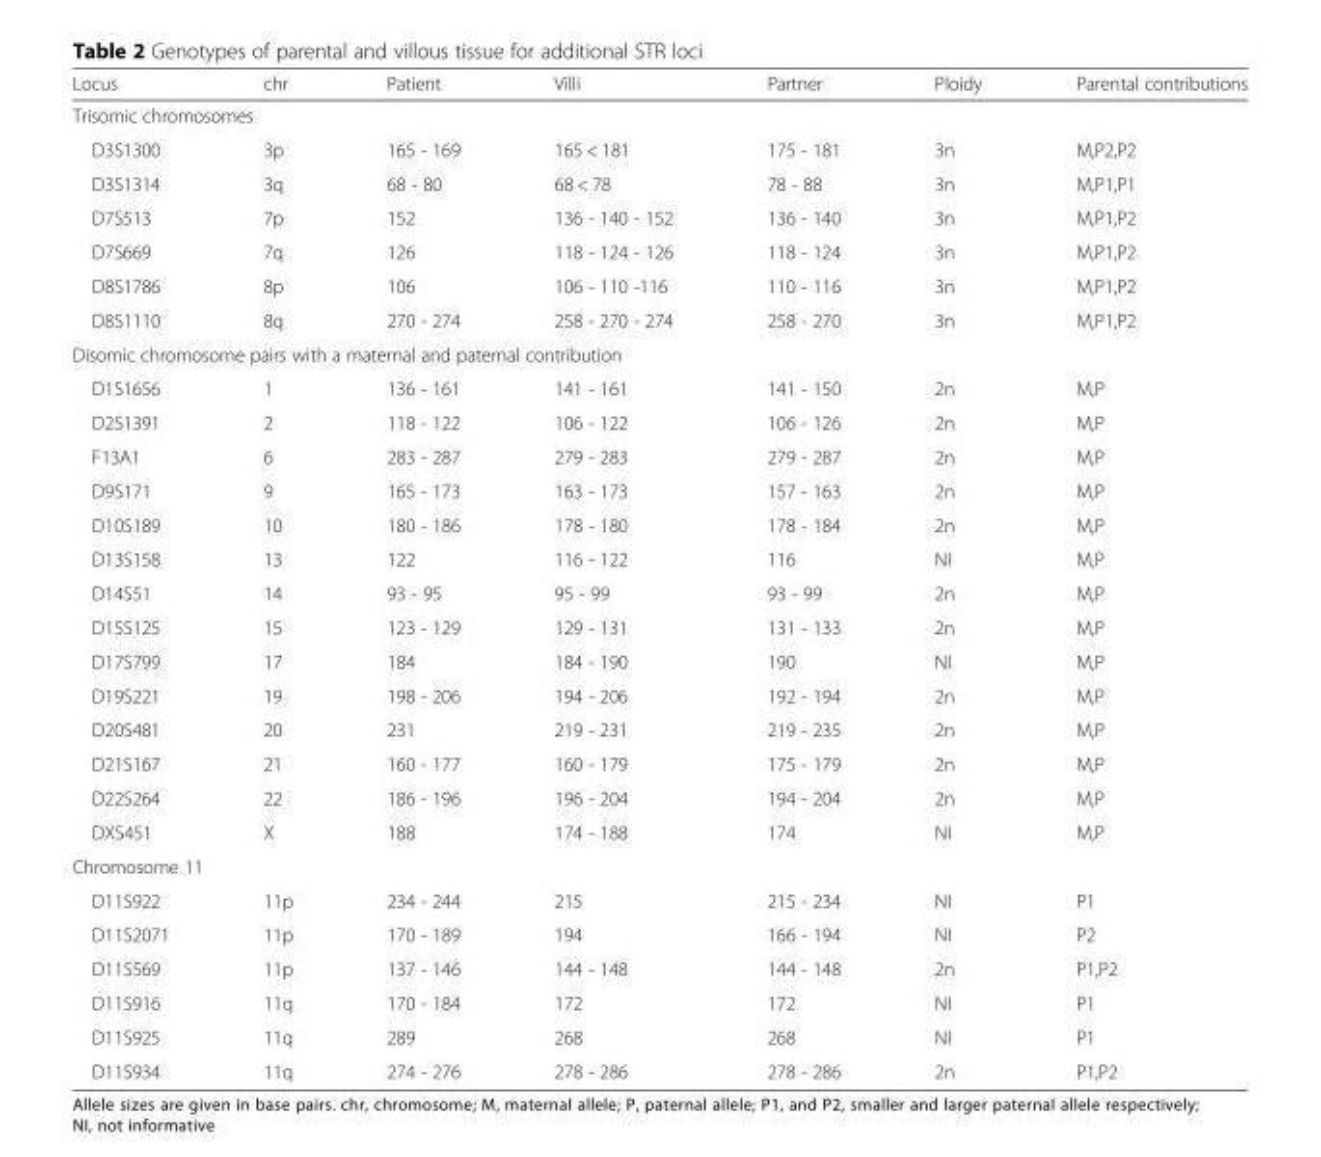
<table><thead><tr><td>Locus</td><td>chr</td><td>Patient</td><td>Villi</td><td>Partner</td><td>Ploidy</td><td>Parental contributions</td></tr></thead><tbody><tr><td colspan="7">Trisomic chromosomes</td></tr><tr><td>D3S1300</td><td>3p</td><td>165 - 169</td><td>165 &lt; 181</td><td>175 - 181</td><td>3n</td><td>M,P2,P2</td></tr><tr><td>D3S1314</td><td>3q</td><td>68 - 80</td><td>68 &lt; 78</td><td>78 - 88</td><td>3n</td><td>M,P1,P1</td></tr><tr><td>D7S513</td><td>7p</td><td>152</td><td>136 - 140 - 152</td><td>136 - 140</td><td>3n</td><td>M,P1,P2</td></tr><tr><td>D7S669</td><td>7q</td><td>126</td><td>118 - 124 - 126</td><td>118 - 124</td><td>3n</td><td>M,P1,P2</td></tr><tr><td>D8S1786</td><td>8p</td><td>106</td><td>106 - 110 -116</td><td>110 - 116</td><td>3n</td><td>M,P1,P2</td></tr><tr><td>D8S1110</td><td>8q</td><td>270 - 274</td><td>258 - 270 - 274</td><td>258 - 270</td><td>3n</td><td>M,P1,P2</td></tr><tr><td colspan="7">Disomic chromosome pairs with a maternal and paternal contribution</td></tr><tr><td>D1S1656</td><td>1</td><td>136 - 161</td><td>141 - 161</td><td>141 - 150</td><td>2n</td><td>M,P</td></tr><tr><td>D2S1391</td><td>2</td><td>118 - 122</td><td>106 - 122</td><td>106 - 126</td><td>2n</td><td>M,P</td></tr><tr><td>F13A1</td><td>6</td><td>283 - 287</td><td>279 - 283</td><td>279 - 287</td><td>2n</td><td>M,P</td></tr><tr><td>D9S171</td><td>9</td><td>165 - 173</td><td>163 - 173</td><td>157 - 163</td><td>2n</td><td>M,P</td></tr><tr><td>D10S189</td><td>10</td><td>180 - 186</td><td>178 - 180</td><td>178 - 184</td><td>2n</td><td>M,P</td></tr><tr><td>D13S158</td><td>13</td><td>122</td><td>116 - 122</td><td>116</td><td>NI</td><td>M,P</td></tr><tr><td>D14S51</td><td>14</td><td>93 - 95</td><td>95 - 99</td><td>93 - 99</td><td>2n</td><td>M,P</td></tr><tr><td>D15S125</td><td>15</td><td>123 - 129</td><td>129 - 131</td><td>131 - 133</td><td>2n</td><td>M,P</td></tr><tr><td>D17S799</td><td>17</td><td>184</td><td>184 - 190</td><td>190</td><td>NI</td><td>M,P</td></tr><tr><td>D19S221</td><td>19</td><td>198 - 206</td><td>194 - 206</td><td>192 - 194</td><td>2n</td><td>M,P</td></tr><tr><td>D20S481</td><td>20</td><td>231</td><td>219 - 231</td><td>219 - 235</td><td>2n</td><td>M,P</td></tr><tr><td>D21S167</td><td>21</td><td>160 - 177</td><td>160 - 179</td><td>175 - 179</td><td>2n</td><td>M,P</td></tr><tr><td>D22S264</td><td>22</td><td>186 - 196</td><td>196 - 204</td><td>194 - 204</td><td>2n</td><td>M,P</td></tr><tr><td>DXS451</td><td>X</td><td>188</td><td>174 - 188</td><td>174</td><td>NI</td><td>M,P</td></tr><tr><td colspan="7">Chromosome 11</td></tr><tr><td>D11S922</td><td>11p</td><td>234 - 244</td><td>215</td><td>215 - 234</td><td>NI</td><td>P1</td></tr><tr><td>D11S2071</td><td>11p</td><td>170 - 189</td><td>194</td><td>166 - 194</td><td>NI</td><td>P2</td></tr><tr><td>D11S569</td><td>11p</td><td>137 - 146</td><td>144 - 148</td><td>144 - 148</td><td>2n</td><td>P1,P2</td></tr><tr><td>D11S916</td><td>11q</td><td>170 - 184</td><td>172</td><td>172</td><td>NI</td><td>P1</td></tr><tr><td>D11S925</td><td>11q</td><td>289</td><td>268</td><td>268</td><td>NI</td><td>P1</td></tr><tr><td>D11S934</td><td>11q</td><td>274 - 276</td><td>278 - 286</td><td>278 - 286</td><td>2n</td><td>P1,P2</td></tr></tbody></table>